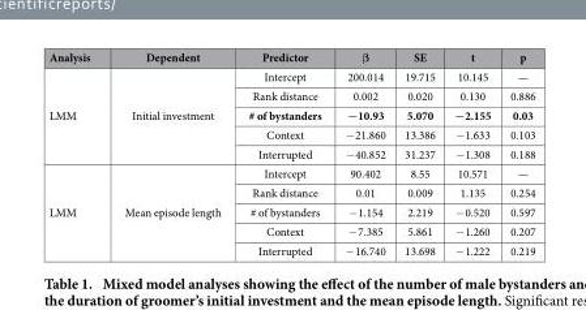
<table><thead><tr><td>Analysis</td><td>Dependent</td><td>Predictor</td><td>β</td><td>SE</td><td>t</td><td>p</td></tr></thead><tbody><tr><td rowspan="5">LMM</td><td rowspan="5">Initial investment</td><td>Intercept</td><td>200.014</td><td>19.715</td><td>10.145</td><td>—</td></tr><tr><td>Rank distance</td><td>0.002</td><td>0.020</td><td>0.130</td><td>0.886</td></tr><tr><td># of bystanders</td><td>−10.93</td><td>5.070</td><td>−2.155</td><td>0.03</td></tr><tr><td>Context</td><td>− 21.860</td><td>13.386</td><td>− 1.633</td><td>0.103</td></tr><tr><td>Interrupted</td><td>− 40.852</td><td>31.237</td><td>− 1.308</td><td>0.188</td></tr><tr><td rowspan="5">LMM</td><td rowspan="5">Mean episode length</td><td>Intercept</td><td>90.402</td><td>8.55</td><td>10.571</td><td>—</td></tr><tr><td>Rank distance</td><td>0.01</td><td>0.009</td><td>1.135</td><td>0.254</td></tr><tr><td># of bystanders</td><td>− 1.154</td><td>2.219</td><td>− 0.520</td><td>0.597</td></tr><tr><td>Context</td><td>− 7.385</td><td>5.861</td><td>− 1.260</td><td>0.207</td></tr><tr><td>Interrupted</td><td>− 16.740</td><td>13.698</td><td>− 1.222</td><td>0.219</td></tr></tbody></table>